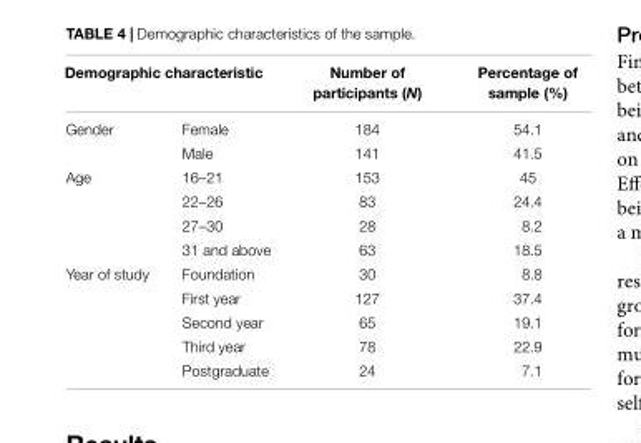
<table><thead><tr><td colspan="2">Demographic characteristic</td><td rowspan="2">Number of participants (N) 184</td><td rowspan="2">Percentage of sample (%) 54.1</td></tr><tr><td>Gender</td><td>Female</td></tr></thead><tbody><tr><td></td><td>Male</td><td>141</td><td>41.5</td></tr><tr><td rowspan="4">Age</td><td>16–21</td><td>153</td><td>45</td></tr><tr><td>22–26</td><td>83</td><td>24.4</td></tr><tr><td>27–30</td><td>28</td><td>8.2</td></tr><tr><td>31 and above</td><td>63</td><td>18.5</td></tr><tr><td rowspan="5">Year of study</td><td>Foundation</td><td>30</td><td>8.8</td></tr><tr><td>First year</td><td>127</td><td>37.4</td></tr><tr><td>Second year</td><td>65</td><td>19.1</td></tr><tr><td>Third year</td><td>78</td><td>22.9</td></tr><tr><td>Postgraduate</td><td>24</td><td>7.1</td></tr></tbody></table>